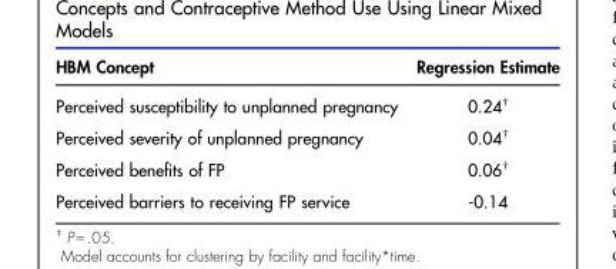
<table><thead><tr><td>HBM Concept</td><td>Regression Estimate</td></tr></thead><tbody><tr><td>Perceived susceptibility to unplanned pregnancy</td><td>0.24†</td></tr><tr><td>Perceived severity of unplanned pregnancy</td><td>0.04†</td></tr><tr><td>Perceived benefits of FP</td><td>0.06†</td></tr><tr><td>Perceived barriers to receiving FP service</td><td>-0.14</td></tr></tbody></table>